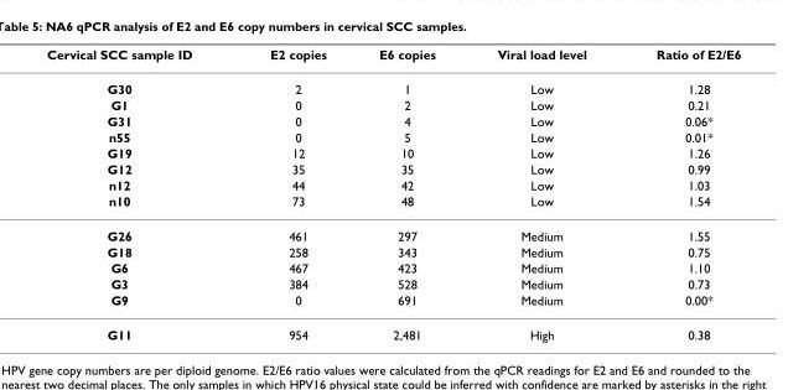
<table><thead><tr><td>Cervical SCC sample ID</td><td>E2 copies</td><td>E6 copies</td><td>Viral load level</td><td>Ratio of E2/E6</td></tr></thead><tbody><tr><td>G30</td><td>2</td><td>1</td><td>Low</td><td>1.28</td></tr><tr><td>G1</td><td>0</td><td>2</td><td>Low</td><td>0.21</td></tr><tr><td>G31</td><td>0</td><td>4</td><td>Low</td><td>0.06*</td></tr><tr><td>n55</td><td>0</td><td>5</td><td>Low</td><td>0.01*</td></tr><tr><td>G19</td><td>12</td><td>10</td><td>Low</td><td>1.26</td></tr><tr><td>G12</td><td>35</td><td>35</td><td>Low</td><td>0.99</td></tr><tr><td>n12</td><td>44</td><td>42</td><td>Low</td><td>1.03</td></tr><tr><td>n10</td><td>73</td><td>48</td><td>Low</td><td>1.54</td></tr><tr><td>G26</td><td>461</td><td>297</td><td>Medium</td><td>1.55</td></tr><tr><td>G18</td><td>258</td><td>343</td><td>Medium</td><td>0.75</td></tr><tr><td>G6</td><td>467</td><td>423</td><td>Medium</td><td>1.10</td></tr><tr><td>G3</td><td>384</td><td>528</td><td>Medium</td><td>0.73</td></tr><tr><td>G9</td><td>0</td><td>691</td><td>Medium</td><td>0.00*</td></tr><tr><td>G11</td><td>954</td><td>2,481</td><td>High</td><td>0.38</td></tr></tbody></table>